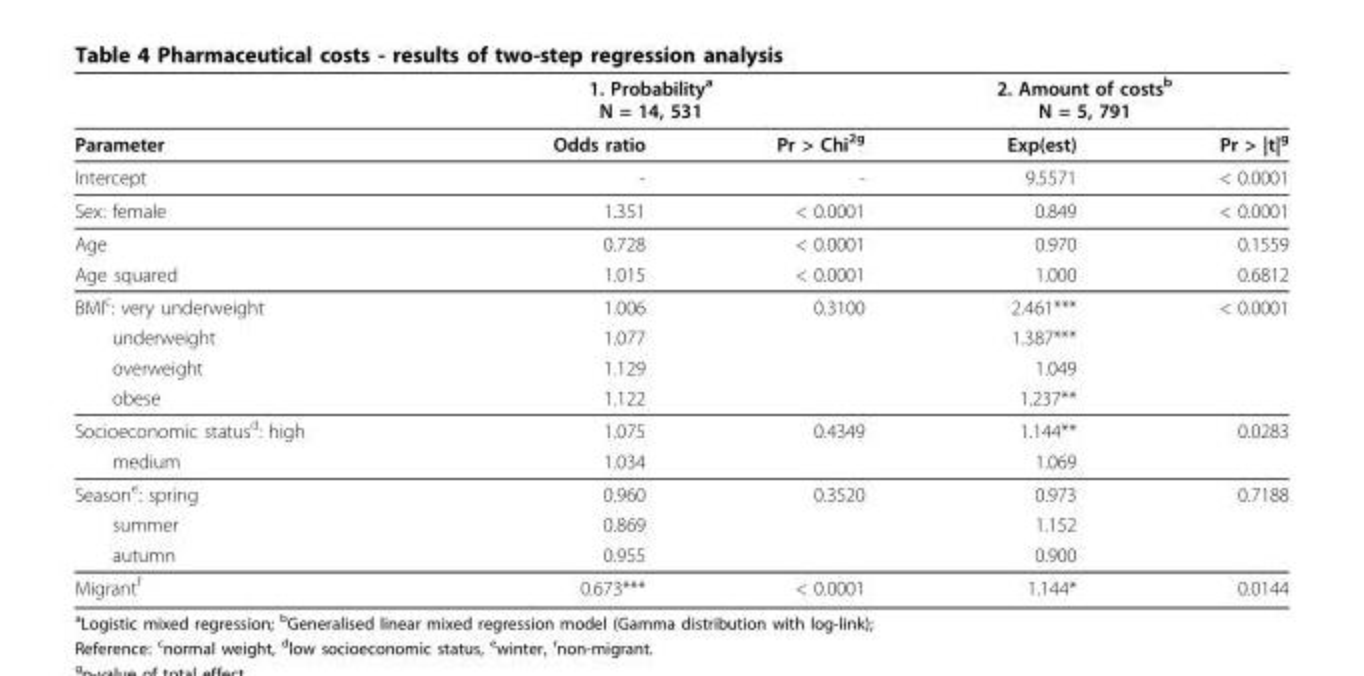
<table><thead><tr><td rowspan="2">Parameter</td><td colspan="2">1. Probability<sup>a</sup> N = 14, 531</td><td colspan="2">2. Amount of costs<sup>b</sup> N = 5, 791</td></tr><tr><td>Odds ratio</td><td>Pr &gt; Chi<sup>2g</sup></td><td>Exp(est)</td><td>Pr &gt; |t|<sup>g</sup></td></tr></thead><tbody><tr><td>Intercept</td><td>-</td><td>-</td><td>9.5571</td><td>&lt; 0.0001</td></tr><tr><td>Sex: female</td><td>1.351</td><td>&lt; 0.0001</td><td>0.849</td><td>&lt; 0.0001</td></tr><tr><td>Age</td><td>0.728</td><td>&lt; 0.0001</td><td>0.970</td><td>0.1559</td></tr><tr><td>Age squared</td><td>1.015</td><td>&lt; 0.0001</td><td>1.000</td><td>0.6812</td></tr><tr><td>BMI<sup>c</sup>: very underweight</td><td>1.006</td><td>0.3100</td><td>2.461***</td><td>&lt; 0.0001</td></tr><tr><td>underweight</td><td>1.077</td><td></td><td>1.387***</td><td></td></tr><tr><td>overweight</td><td>1.129</td><td></td><td>1.049</td><td></td></tr><tr><td>obese</td><td>1.122</td><td></td><td>1.237**</td><td></td></tr><tr><td>Socioeconomic status<sup>d</sup>: high</td><td>1.075</td><td>0.4349</td><td>1.144**</td><td>0.0283</td></tr><tr><td>medium</td><td>1.034</td><td></td><td>1.069</td><td></td></tr><tr><td>Season<sup>e</sup>: spring</td><td>0.960</td><td>0.3520</td><td>0.973</td><td>0.7188</td></tr><tr><td>summer</td><td>0.869</td><td></td><td>1.152</td><td></td></tr><tr><td>autumn</td><td>0.955</td><td></td><td>0.900</td><td></td></tr><tr><td>Migrant<sup>f</sup></td><td>0.673***</td><td>&lt; 0.0001</td><td>1.144*</td><td>0.0144</td></tr></tbody></table>